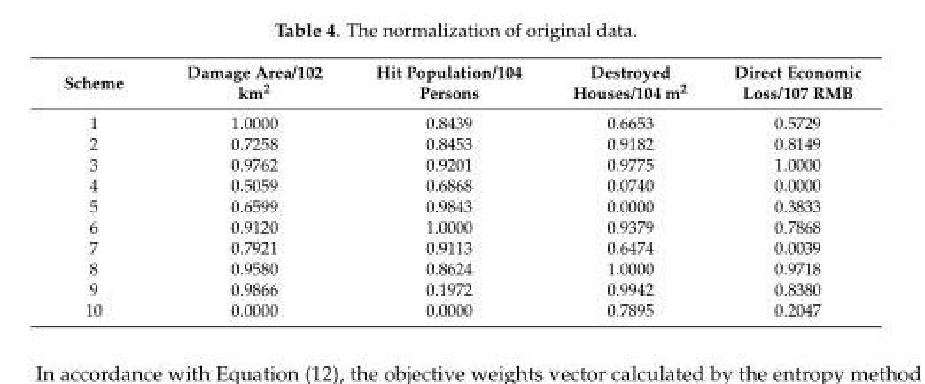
<table><thead><tr><td>Scheme</td><td>Damage Area/102 km<sup>2</sup></td><td>Hit Population/104 Persons</td><td>Destroyed Houses/104 m<sup>2</sup></td><td>Direct Economic Loss/107 RMB</td></tr></thead><tbody><tr><td>1</td><td>1.0000</td><td>0.8439</td><td>0.6653</td><td>0.5729</td></tr><tr><td>2</td><td>0.7258</td><td>0.8453</td><td>0.9182</td><td>0.8149</td></tr><tr><td>3</td><td>0.9762</td><td>0.9201</td><td>0.9775</td><td>1.0000</td></tr><tr><td>4</td><td>0.5059</td><td>0.6868</td><td>0.0740</td><td>0.0000</td></tr><tr><td>5</td><td>0.6599</td><td>0.9843</td><td>0.0000</td><td>0.3833</td></tr><tr><td>6</td><td>0.9120</td><td>1.0000</td><td>0.9379</td><td>0.7868</td></tr><tr><td>7</td><td>0.7921</td><td>0.9113</td><td>0.6474</td><td>0.0039</td></tr><tr><td>8</td><td>0.9580</td><td>0.8624</td><td>1.0000</td><td>0.9718</td></tr><tr><td>9</td><td>0.9866</td><td>0.1972</td><td>0.9942</td><td>0.8380</td></tr><tr><td>10</td><td>0.0000</td><td>0.0000</td><td>0.7895</td><td>0.2047</td></tr></tbody></table>